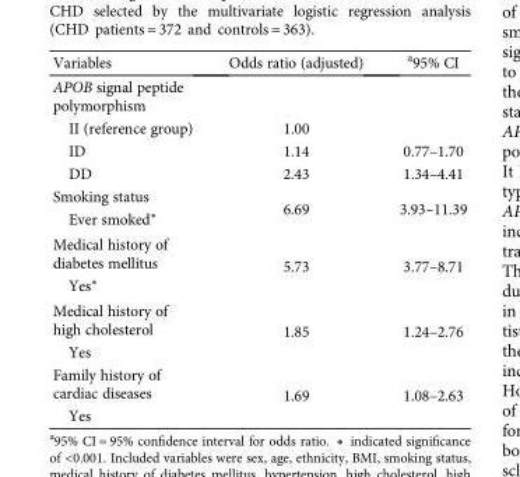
<table><thead><tr><td>Variables</td><td>Odds ratio (adjusted)</td><td><sup>a</sup>95% CI</td></tr></thead><tbody><tr><td colspan="3">APOB signal peptide polymorphism</td></tr><tr><td>II (reference group)</td><td>1.00</td><td></td></tr><tr><td>ID</td><td>1.14</td><td>0.77–1.70</td></tr><tr><td>DD</td><td>2.43</td><td>1.34–4.41</td></tr><tr><td>Smoking status</td><td rowspan="2">6.69</td><td rowspan="2">3.93–11.39</td></tr><tr><td>Ever smoked∗</td></tr><tr><td>Medical history of diabetes mellitus</td><td rowspan="2">5.73</td><td rowspan="2">3.77–8.71</td></tr><tr><td>Yes∗</td></tr><tr><td>Medical history of high cholesterol</td><td rowspan="2">1.85</td><td rowspan="2">1.24–2.76</td></tr><tr><td>Yes</td></tr><tr><td>Family history of cardiac diseases</td><td rowspan="2">1.69</td><td rowspan="2">1.08–2.63</td></tr><tr><td>Yes</td></tr></tbody></table>